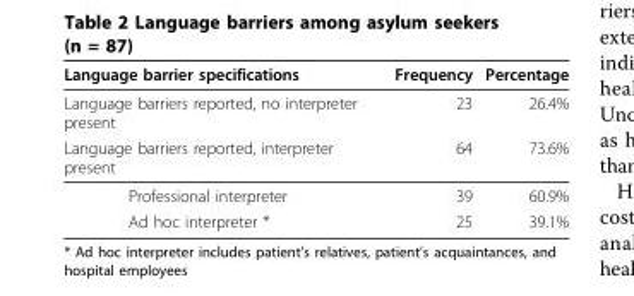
<table><thead><tr><td>Language barrier specifications</td><td>Frequency</td><td>Percentage</td></tr></thead><tbody><tr><td>Language barriers reported, no interpreter present</td><td>23</td><td>26.4%</td></tr><tr><td>Language barriers reported, interpreter present</td><td>64</td><td>73.6%</td></tr><tr><td>Professional interpreter</td><td>39</td><td>60.9%</td></tr><tr><td>Ad hoc interpreter *</td><td>25</td><td>39.1%</td></tr></tbody></table>